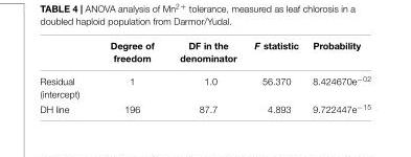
<table><thead><tr><td></td><td>Degree of freedom</td><td>DF in the denominator</td><td>F statistic</td><td>Probability</td></tr></thead><tbody><tr><td>Residual (intercept)</td><td>1</td><td>1.0</td><td>56.370</td><td>8.424670e<sup>−02</sup></td></tr><tr><td>DH line</td><td>196</td><td>87.7</td><td>4.893</td><td>9.722447e<sup>−15</sup></td></tr></tbody></table>